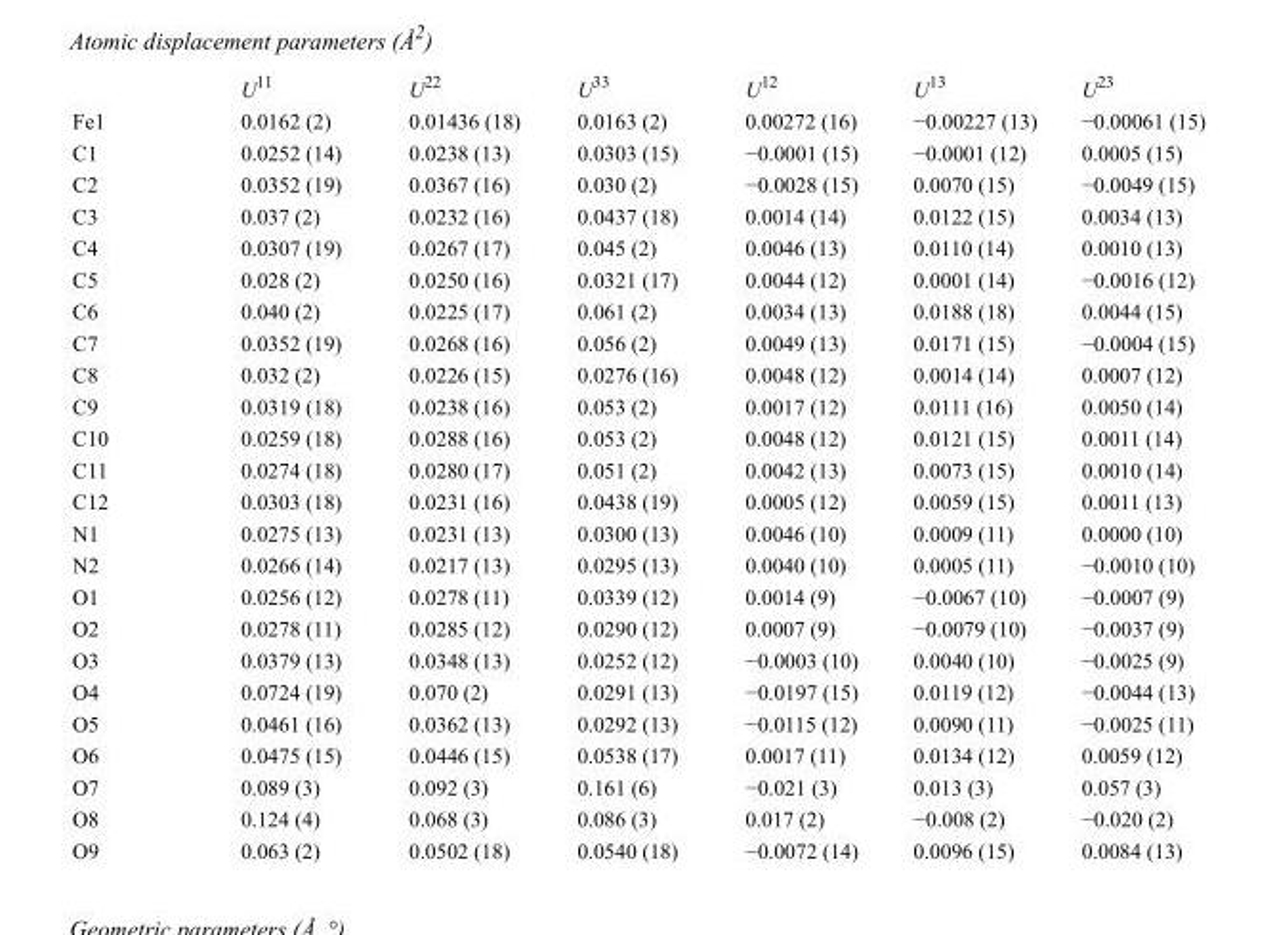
<table><thead><tr><td></td><td>U<sup>11</sup></td><td>U<sup>22</sup></td><td>U<sup>33</sup></td><td>U<sup>12</sup></td><td>U<sup>13</sup></td><td>U<sup>23</sup></td></tr></thead><tbody><tr><td>Fe1</td><td>0.0162 (2)</td><td>0.01436 (18)</td><td>0.0163 (2)</td><td>0.00272 (16)</td><td>−0.00227 (13)</td><td>−0.00061 (15)</td></tr><tr><td>C1</td><td>0.0252 (14)</td><td>0.0238 (13)</td><td>0.0303 (15)</td><td>−0.0001 (15)</td><td>−0.0001 (12)</td><td>0.0005 (15)</td></tr><tr><td>C2</td><td>0.0352 (19)</td><td>0.0367 (16)</td><td>0.030 (2)</td><td>−0.0028 (15)</td><td>0.0070 (15)</td><td>−0.0049 (15)</td></tr><tr><td>C3</td><td>0.037 (2)</td><td>0.0232 (16)</td><td>0.0437 (18)</td><td>0.0014 (14)</td><td>0.0122 (15)</td><td>0.0034 (13)</td></tr><tr><td>C4</td><td>0.0307 (19)</td><td>0.0267 (17)</td><td>0.045 (2)</td><td>0.0046 (13)</td><td>0.0110 (14)</td><td>0.0010 (13)</td></tr><tr><td>C5</td><td>0.028 (2)</td><td>0.0250 (16)</td><td>0.0321 (17)</td><td>0.0044 (12)</td><td>0.0001 (14)</td><td>−0.0016 (12)</td></tr><tr><td>C6</td><td>0.040 (2)</td><td>0.0225 (17)</td><td>0.061 (2)</td><td>0.0034 (13)</td><td>0.0188 (18)</td><td>0.0044 (15)</td></tr><tr><td>C7</td><td>0.0352 (19)</td><td>0.0268 (16)</td><td>0.056 (2)</td><td>0.0049 (13)</td><td>0.0171 (15)</td><td>−0.0004 (15)</td></tr><tr><td>C8</td><td>0.032 (2)</td><td>0.0226 (15)</td><td>0.0276 (16)</td><td>0.0048 (12)</td><td>0.0014 (14)</td><td>0.0007 (12)</td></tr><tr><td>C9</td><td>0.0319 (18)</td><td>0.0238 (16)</td><td>0.053 (2)</td><td>0.0017 (12)</td><td>0.0111 (16)</td><td>0.0050 (14)</td></tr><tr><td>C10</td><td>0.0259 (18)</td><td>0.0288 (16)</td><td>0.053 (2)</td><td>0.0048 (12)</td><td>0.0121 (15)</td><td>0.0011 (14)</td></tr><tr><td>C11</td><td>0.0274 (18)</td><td>0.0280 (17)</td><td>0.051 (2)</td><td>0.0042 (13)</td><td>0.0073 (15)</td><td>0.0010 (14)</td></tr><tr><td>C12</td><td>0.0303 (18)</td><td>0.0231 (16)</td><td>0.0438 (19)</td><td>0.0005 (12)</td><td>0.0059 (15)</td><td>0.0011 (13)</td></tr><tr><td>N1</td><td>0.0275 (13)</td><td>0.0231 (13)</td><td>0.0300 (13)</td><td>0.0046 (10)</td><td>0.0009 (11)</td><td>0.0000 (10)</td></tr><tr><td>N2</td><td>0.0266 (14)</td><td>0.0217 (13)</td><td>0.0295 (13)</td><td>0.0040 (10)</td><td>0.0005 (11)</td><td>−0.0010 (10)</td></tr><tr><td>O1</td><td>0.0256 (12)</td><td>0.0278 (11)</td><td>0.0339 (12)</td><td>0.0014 (9)</td><td>−0.0067 (10)</td><td>−0.0007 (9)</td></tr><tr><td>O2</td><td>0.0278 (11)</td><td>0.0285 (12)</td><td>0.0290 (12)</td><td>0.0007 (9)</td><td>−0.0079 (10)</td><td>−0.0037 (9)</td></tr><tr><td>O3</td><td>0.0379 (13)</td><td>0.0348 (13)</td><td>0.0252 (12)</td><td>−0.0003 (10)</td><td>0.0040 (10)</td><td>−0.0025 (9)</td></tr><tr><td>O4</td><td>0.0724 (19)</td><td>0.070 (2)</td><td>0.0291 (13)</td><td>−0.0197 (15)</td><td>0.0119 (12)</td><td>−0.0044 (13)</td></tr><tr><td>O5</td><td>0.0461 (16)</td><td>0.0362 (13)</td><td>0.0292 (13)</td><td>−0.0115 (12)</td><td>0.0090 (11)</td><td>−0.0025 (11)</td></tr><tr><td>O6</td><td>0.0475 (15)</td><td>0.0446 (15)</td><td>0.0538 (17)</td><td>0.0017 (11)</td><td>0.0134 (12)</td><td>0.0059 (12)</td></tr><tr><td>O7</td><td>0.089 (3)</td><td>0.092 (3)</td><td>0.161 (6)</td><td>−0.021 (3)</td><td>0.013 (3)</td><td>0.057 (3)</td></tr><tr><td>O8</td><td>0.124 (4)</td><td>0.068 (3)</td><td>0.086 (3)</td><td>0.017 (2)</td><td>−0.008 (2)</td><td>−0.020 (2)</td></tr><tr><td>O9</td><td>0.063 (2)</td><td>0.0502 (18)</td><td>0.0540 (18)</td><td>−0.0072 (14)</td><td>0.0096 (15)</td><td>0.0084 (13)</td></tr></tbody></table>